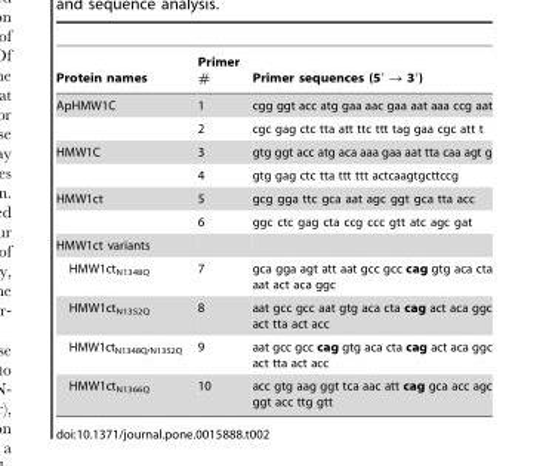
<table><thead><tr><td>Protein names</td><td>Primer #</td><td>Primer sequences (5′ → 3′)</td></tr></thead><tbody><tr><td rowspan="2">ApHMW1C</td><td>1</td><td>cgg ggt acc atg gaa aac gaa aat aaa ccg aat</td></tr><tr><td>2</td><td>cgc gag ctc tta att ttc ttt tag gaa cgc att t</td></tr><tr><td rowspan="2">HMW1C</td><td>3</td><td>gtg ggt acc atg aca aaa gaa aat tta caa agt g</td></tr><tr><td>4</td><td>gtg gag ctc tta ttt ttt actcaagtgcttccg</td></tr><tr><td rowspan="2">HMW1ct</td><td>5</td><td>gcg gga ttc gca aat agc ggt gca tta acc</td></tr><tr><td>6</td><td>ggc ctc gag cta ccg ccc gtt atc agc gat</td></tr><tr><td colspan="3">HMW1ct variants</td></tr><tr><td>HMW1ct<sub>N1348Q</sub></td><td>7</td><td>gca gga agt att aat gcc gcc cag gtg aca cta aat act aca ggc</td></tr><tr><td>HMW1ct<sub>N1352Q</sub></td><td>8</td><td>aat gcc gcc aat gtg aca cta cag act aca ggc act tta act acc</td></tr><tr><td>HMW1ct<sub>N1348Q/N1352Q</sub></td><td>9</td><td>aat gcc gcc cag gtg aca cta cag act aca ggc act tta act acc</td></tr><tr><td>HMW1ct<sub>N1366Q</sub></td><td>10</td><td>acc gtg aag ggt tca aac att cag gca acc agc ggt acc ttg gtt</td></tr></tbody></table>